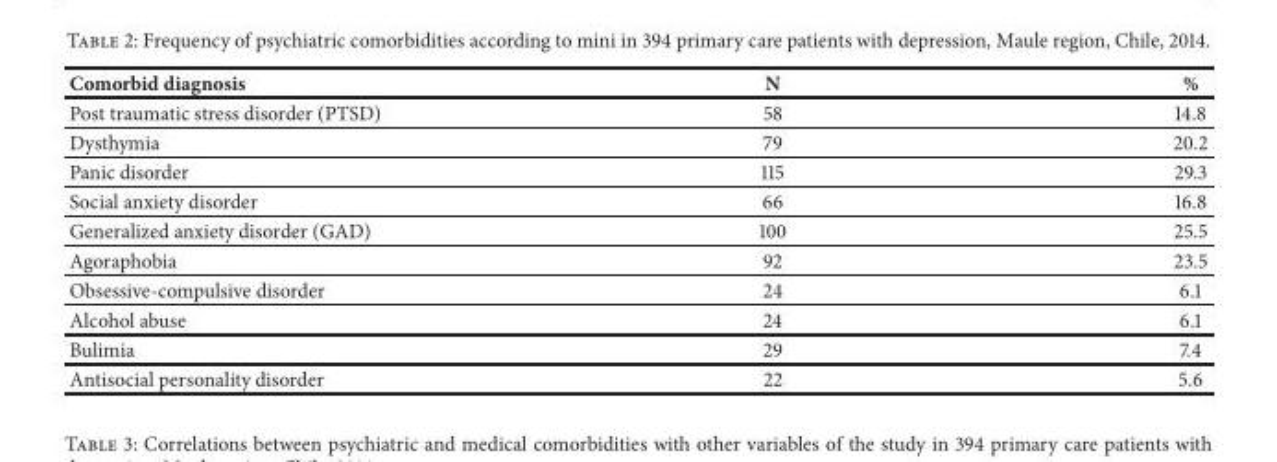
<table><thead><tr><td>Comorbid diagnosis</td><td>N</td><td>%</td></tr></thead><tbody><tr><td>Post traumatic stress disorder (PTSD)</td><td>58</td><td>14.8</td></tr><tr><td>Dysthymia</td><td>79</td><td>20.2</td></tr><tr><td>Panic disorder</td><td>115</td><td>29.3</td></tr><tr><td>Social anxiety disorder</td><td>66</td><td>16.8</td></tr><tr><td>Generalized anxiety disorder (GAD)</td><td>100</td><td>25.5</td></tr><tr><td>Agoraphobia</td><td>92</td><td>23.5</td></tr><tr><td>Obsessive-compulsive disorder</td><td>24</td><td>6.1</td></tr><tr><td>Alcohol abuse</td><td>24</td><td>6.1</td></tr><tr><td>Bulimia</td><td>29</td><td>7.4</td></tr><tr><td>Antisocial personality disorder</td><td>22</td><td>5.6</td></tr></tbody></table>